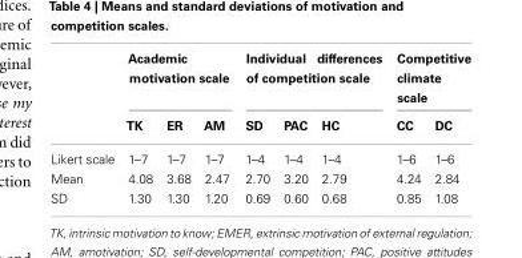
<table><thead><tr><td rowspan="2"></td><td colspan="3">Academic motivation scale</td><td colspan="3">Individual differences of competition scale</td><td colspan="2">Competitive climate scale</td></tr><tr><td>TK</td><td>ER</td><td>AM</td><td>SD</td><td>PAC</td><td>HC</td><td>CC</td><td>DC</td></tr></thead><tbody><tr><td>Likert scale</td><td>1–7</td><td>1–7</td><td>1–7</td><td>1–4</td><td>1–4</td><td>1–4</td><td>1–6</td><td>1–6</td></tr><tr><td>Mean</td><td>4.08</td><td>3.68</td><td>2.47</td><td>2.70</td><td>3.20</td><td>2.79</td><td>4.24</td><td>2.84</td></tr><tr><td>SD</td><td>1.30</td><td>1.30</td><td>1.20</td><td>0.69</td><td>0.60</td><td>0.68</td><td>0.85</td><td>1.08</td></tr></tbody></table>